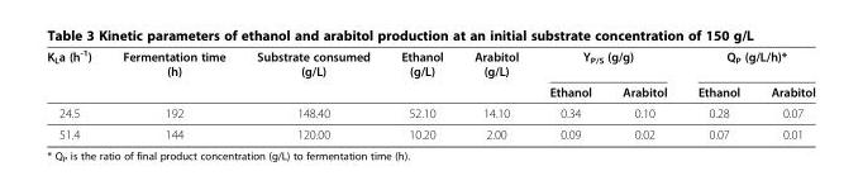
<table><thead><tr><td rowspan="2">K<sub>L</sub>a (h<sup>-1</sup>)</td><td rowspan="2">Fermentation time (h)</td><td rowspan="2">Substrate consumed (g/L)</td><td rowspan="2">Ethanol (g/L)</td><td rowspan="2">Arabitol (g/L)</td><td colspan="2">Y<sub>P/S</sub> (g/g)</td><td colspan="2">Q<sub>P</sub> (g/L/h)*</td></tr><tr><td>Ethanol</td><td>Arabitol</td><td>Ethanol</td><td>Arabitol</td></tr></thead><tbody><tr><td>24.5</td><td>192</td><td>148.40</td><td>52.10</td><td>14.10</td><td>0.34</td><td>0.10</td><td>0.28</td><td>0.07</td></tr><tr><td>51.4</td><td>144</td><td>120.00</td><td>10.20</td><td>2.00</td><td>0.09</td><td>0.02</td><td>0.07</td><td>0.01</td></tr></tbody></table>